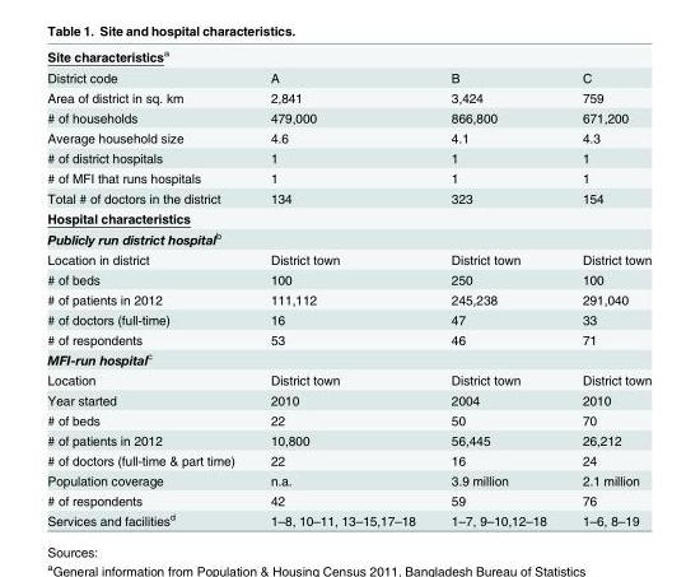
<table><tbody><tr><td colspan="4">Site characteristics<sup>a</sup></td></tr><tr><td>District code</td><td>A</td><td>B</td><td>C</td></tr><tr><td>Area of district in sq. km</td><td>2,841</td><td>3,424</td><td>759</td></tr><tr><td># of households</td><td>479,000</td><td>866,800</td><td>671,200</td></tr><tr><td>Average household size</td><td>4.6</td><td>4.1</td><td>4.3</td></tr><tr><td># of district hospitals</td><td>1</td><td>1</td><td>1</td></tr><tr><td># of MFI that runs hospitals</td><td>1</td><td>1</td><td>1</td></tr><tr><td>Total # of doctors in the district</td><td>134</td><td>323</td><td>154</td></tr><tr><td colspan="4">Hospital characteristics</td></tr><tr><td colspan="4">Publicly run district hospital<sup>b</sup></td></tr><tr><td>Location in district</td><td>District town</td><td>District town</td><td>District town</td></tr><tr><td># of beds</td><td>100</td><td>250</td><td>100</td></tr><tr><td># of patients in 2012</td><td>111,112</td><td>245,238</td><td>291,040</td></tr><tr><td># of doctors (full-time)</td><td>16</td><td>47</td><td>33</td></tr><tr><td># of respondents</td><td>53</td><td>46</td><td>71</td></tr><tr><td colspan="4">MFI-run hospital<sup>c</sup></td></tr><tr><td>Location</td><td>District town</td><td>District town</td><td>District town</td></tr><tr><td>Year started</td><td>2010</td><td>2004</td><td>2010</td></tr><tr><td># of beds</td><td>22</td><td>50</td><td>70</td></tr><tr><td># of patients in 2012</td><td>10,800</td><td>56,445</td><td>26,212</td></tr><tr><td># of doctors (full-time &amp; part time)</td><td>22</td><td>16</td><td>24</td></tr><tr><td>Population coverage</td><td>n.a.</td><td>3.9 million</td><td>2.1 million</td></tr><tr><td># of respondents</td><td>42</td><td>59</td><td>76</td></tr><tr><td>Services and facilities<sup>d</sup></td><td>1–8, 10–11, 13–15,17–18</td><td>1–7, 9–10,12–18</td><td>1–6, 8–19</td></tr></tbody></table>